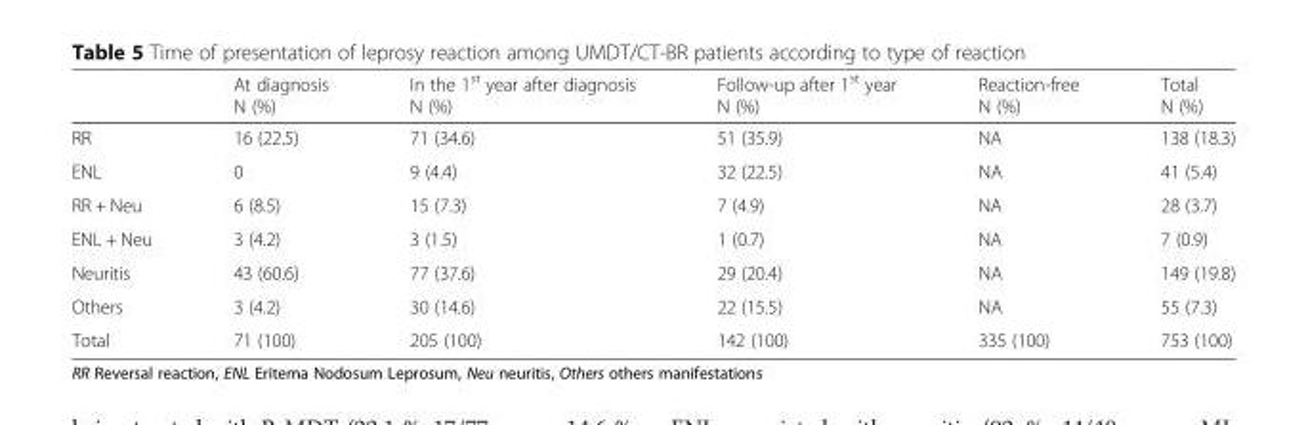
<table><thead><tr><td></td><td>At diagnosis N (%)</td><td>In the 1<sup>st</sup> year after diagnosis N (%)</td><td>Follow-up after 1<sup>st</sup> year N (%)</td><td>Reaction-free N (%)</td><td>Total N (%)</td></tr></thead><tbody><tr><td>RR</td><td>16 (22.5)</td><td>71 (34.6)</td><td>51 (35.9)</td><td>NA</td><td>138 (18.3)</td></tr><tr><td>ENL</td><td>0</td><td>9 (4.4)</td><td>32 (22.5)</td><td>NA</td><td>41 (5.4)</td></tr><tr><td>RR + Neu</td><td>6 (8.5)</td><td>15 (7.3)</td><td>7 (4.9)</td><td>NA</td><td>28 (3.7)</td></tr><tr><td>ENL + Neu</td><td>3 (4.2)</td><td>3 (1.5)</td><td>1 (0.7)</td><td>NA</td><td>7 (0.9)</td></tr><tr><td>Neuritis</td><td>43 (60.6)</td><td>77 (37.6)</td><td>29 (20.4)</td><td>NA</td><td>149 (19.8)</td></tr><tr><td>Others</td><td>3 (4.2)</td><td>30 (14.6)</td><td>22 (15.5)</td><td>NA</td><td>55 (7.3)</td></tr><tr><td>Total</td><td>71 (100)</td><td>205 (100)</td><td>142 (100)</td><td>335 (100)</td><td>753 (100)</td></tr></tbody></table>